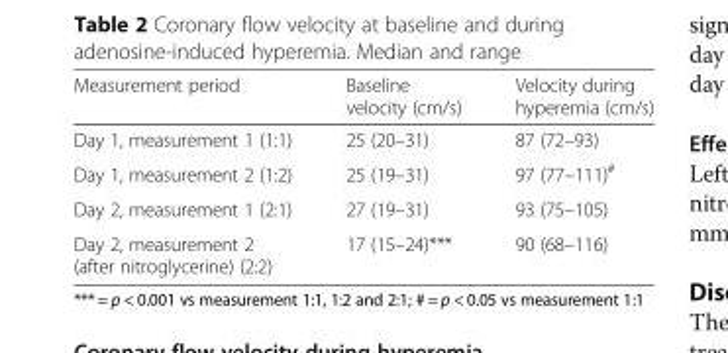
<table><thead><tr><td>Measurement period</td><td>Baseline velocity (cm/s)</td><td>Velocity during hyperemia (cm/s)</td></tr></thead><tbody><tr><td>Day 1, measurement 1 (1:1)</td><td>25 (20–31)</td><td>87 (72–93)</td></tr><tr><td>Day 1, measurement 2 (1:2)</td><td>25 (19–31)</td><td>97 (77–111)<sup>#</sup></td></tr><tr><td>Day 2, measurement 1 (2:1)</td><td>27 (19–31)</td><td>93 (75–105)</td></tr><tr><td>Day 2, measurement 2 (after nitroglycerine) (2:2)</td><td>17 (15–24)***</td><td>90 (68–116)</td></tr></tbody></table>